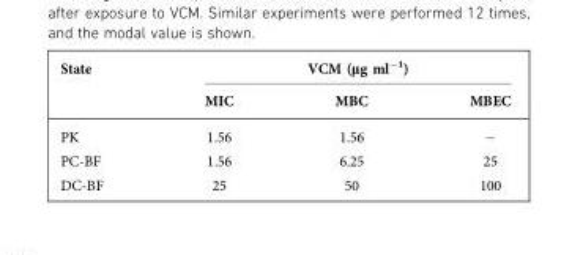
<table><thead><tr><td rowspan="2">State</td><td colspan="3">VCM (μg ml<sup>−1</sup>)</td></tr><tr><td>MIC</td><td>MBC</td><td>MBEC</td></tr></thead><tbody><tr><td>PK</td><td>1.56</td><td>1.56</td><td>－</td></tr><tr><td>PC-BF</td><td>1.56</td><td>6.25</td><td>25</td></tr><tr><td>DC-BF</td><td>25</td><td>50</td><td>100</td></tr></tbody></table>